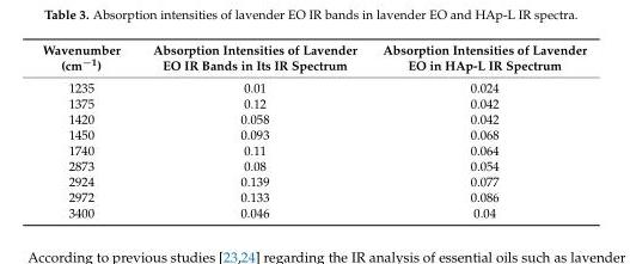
<table><thead><tr><td>Wavenumber (cm<sup>−1</sup>)</td><td>Absorption Intensities of Lavender EO IR Bands in Its IR Spectrum</td><td>Absorption Intensities of Lavender EO in HAp-L IR Spectrum</td></tr></thead><tbody><tr><td>1235</td><td>0.01</td><td>0.024</td></tr><tr><td>1375</td><td>0.12</td><td>0.042</td></tr><tr><td>1420</td><td>0.058</td><td>0.042</td></tr><tr><td>1450</td><td>0.093</td><td>0.068</td></tr><tr><td>1740</td><td>0.11</td><td>0.064</td></tr><tr><td>2873</td><td>0.08</td><td>0.054</td></tr><tr><td>2924</td><td>0.139</td><td>0.077</td></tr><tr><td>2972</td><td>0.133</td><td>0.086</td></tr><tr><td>3400</td><td>0.046</td><td>0.04</td></tr></tbody></table>